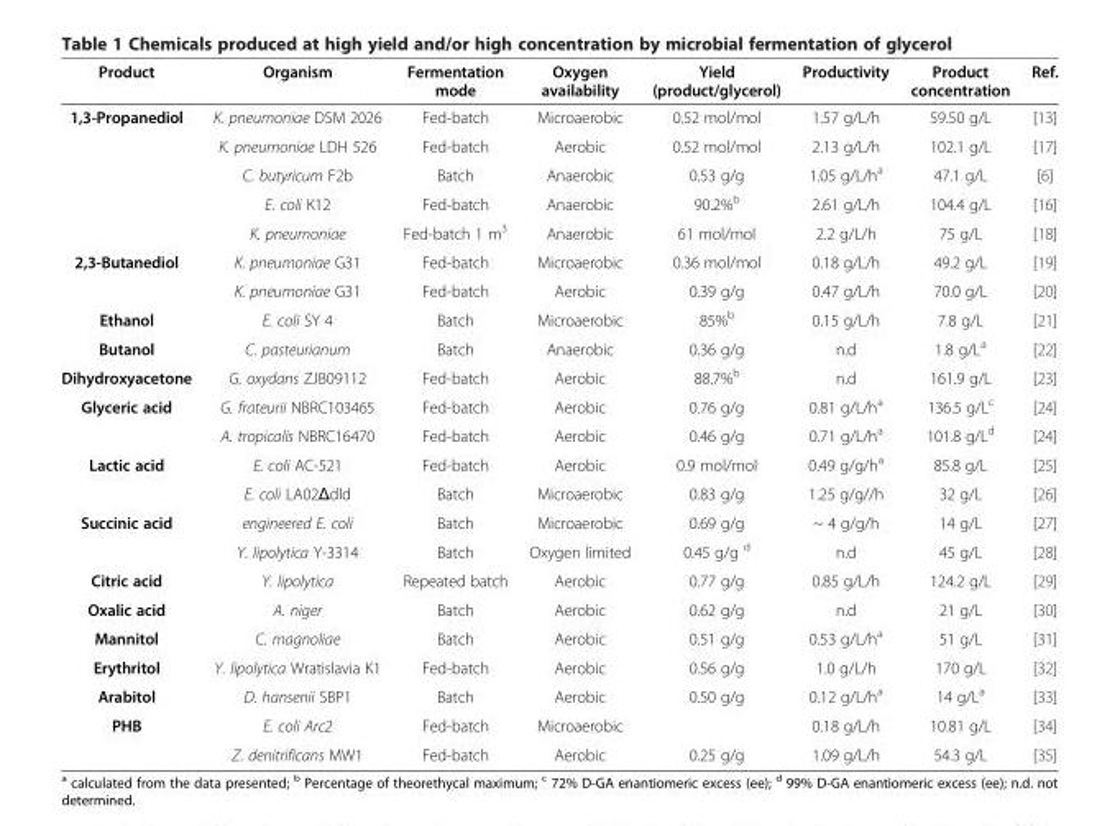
<table><thead><tr><td>Product</td><td>Organism</td><td>Fermentation mode</td><td>Oxygen availability</td><td>Yield (product/glycerol)</td><td>Productivity</td><td>Product concentration</td><td>Ref.</td></tr></thead><tbody><tr><td rowspan="5">1,3-Propanediol</td><td>K. pneumoniae DSM 2026</td><td>Fed-batch</td><td>Microaerobic</td><td>0.52 mol/mol</td><td>1.57 g/L/h</td><td>59.50 g/L</td><td>[13]</td></tr><tr><td>K. pneumoniae LDH 526</td><td>Fed-batch</td><td>Aerobic</td><td>0.52 mol/mol</td><td>2.13 g/L/h</td><td>102.1 g/L</td><td>[17]</td></tr><tr><td>C. butyricum F2b</td><td>Batch</td><td>Anaerobic</td><td>0.53 g/g</td><td>1.05 g/L/h<sup>a</sup></td><td>47.1 g/L</td><td>[6]</td></tr><tr><td>E. coli K12</td><td>Fed-batch</td><td>Anaerobic</td><td>90.2%<sup>b</sup></td><td>2.61 g/L/h</td><td>104.4 g/L</td><td>[16]</td></tr><tr><td>K. pneumoniae</td><td>Fed-batch 1 m<sup>3</sup></td><td>Anaerobic</td><td>61 mol/mol</td><td>2.2 g/L/h</td><td>75 g/L</td><td>[18]</td></tr><tr><td rowspan="2">2,3-Butanediol</td><td>K. pneumoniae G31</td><td>Fed-batch</td><td>Microaerobic</td><td>0.36 mol/mol</td><td>0.18 g/L/h</td><td>49.2 g/L</td><td>[19]</td></tr><tr><td>K. pneumoniae G31</td><td>Fed-batch</td><td>Aerobic</td><td>0.39 g/g</td><td>0.47 g/L/h</td><td>70.0 g/L</td><td>[20]</td></tr><tr><td>Ethanol</td><td>E. coli SY 4</td><td>Batch</td><td>Microaerobic</td><td>85%<sup>b</sup></td><td>0.15 g/L/h</td><td>7.8 g/L</td><td>[21]</td></tr><tr><td>Butanol</td><td>C. pasteurianum</td><td>Batch</td><td>Anaerobic</td><td>0.36 g/g</td><td>n.d</td><td>1.8 g/L<sup>a</sup></td><td>[22]</td></tr><tr><td>Dihydroxyacetone</td><td>G. oxydans ZJB09112</td><td>Fed-batch</td><td>Aerobic</td><td>88.7%<sup>b</sup></td><td>n.d</td><td>161.9 g/L</td><td>[23]</td></tr><tr><td rowspan="2">Glyceric acid</td><td>G. frateurii NBRC103465</td><td>Fed-batch</td><td>Aerobic</td><td>0.76 g/g</td><td>0.81 g/L/h<sup>a</sup></td><td>136.5 g/L<sup>c</sup></td><td>[24]</td></tr><tr><td>A. tropicalis NBRC16470</td><td>Fed-batch</td><td>Aerobic</td><td>0.46 g/g</td><td>0.71 g/L/h<sup>a</sup></td><td>101.8 g/L<sup>d</sup></td><td>[24]</td></tr><tr><td rowspan="2">Lactic acid</td><td>E. coli AC-521</td><td>Fed-batch</td><td>Aerobic</td><td>0.9 mol/mol</td><td>0.49 g/g/h<sup>a</sup></td><td>85.8 g/L</td><td>[25]</td></tr><tr><td>E. coli LA02Δdld</td><td>Batch</td><td>Microaerobic</td><td>0.83 g/g</td><td>1.25 g/g//h</td><td>32 g/L</td><td>[26]</td></tr><tr><td rowspan="2">Succinic acid</td><td>engineered E. coli</td><td>Batch</td><td>Microaerobic</td><td>0.69 g/g</td><td>~ 4 g/g/h</td><td>14 g/L</td><td>[27]</td></tr><tr><td>Y. lipolytica Y-3314</td><td>Batch</td><td>Oxygen limited</td><td>0.45 g/g <sup>d</sup></td><td>n.d</td><td>45 g/L</td><td>[28]</td></tr><tr><td>Citric acid</td><td>Y. lipolytica</td><td>Repeated batch</td><td>Aerobic</td><td>0.77 g/g</td><td>0.85 g/L/h</td><td>124.2 g/L</td><td>[29]</td></tr><tr><td>Oxalic acid</td><td>A. niger</td><td>Batch</td><td>Aerobic</td><td>0.62 g/g</td><td>n.d</td><td>21 g/L</td><td>[30]</td></tr><tr><td>Mannitol</td><td>C. magnoliae</td><td>Batch</td><td>Aerobic</td><td>0.51 g/g</td><td>0.53 g/L/h<sup>a</sup></td><td>51 g/L</td><td>[31]</td></tr><tr><td>Erythritol</td><td>Y. lipolytica Wratislavia K1</td><td>Fed-batch</td><td>Aerobic</td><td>0.56 g/g</td><td>1.0 g/L/h</td><td>170 g/L</td><td>[32]</td></tr><tr><td>Arabitol</td><td>D. hansenii SBP1</td><td>Batch</td><td>Aerobic</td><td>0.50 g/g</td><td>0.12 g/L/h<sup>a</sup></td><td>14 g/L<sup>a</sup></td><td>[33]</td></tr><tr><td rowspan="2">PHB</td><td>E. coli Arc2</td><td>Fed-batch</td><td>Microaerobic</td><td></td><td>0.18 g/L/h</td><td>10.81 g/L</td><td>[34]</td></tr><tr><td>Z. denitrificans MW1</td><td>Fed-batch</td><td>Aerobic</td><td>0.25 g/g</td><td>1.09 g/L/h</td><td>54.3 g/L</td><td>[35]</td></tr></tbody></table>